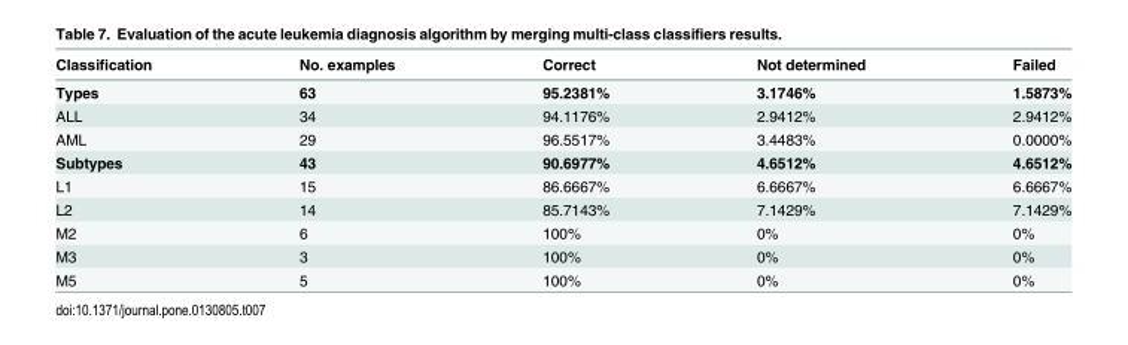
<table><thead><tr><td>Classification</td><td>No. examples</td><td>Correct</td><td>Not determined</td><td>Failed</td></tr></thead><tbody><tr><td>Types</td><td>63</td><td>95.2381%</td><td>3.1746%</td><td>1.5873%</td></tr><tr><td>ALL</td><td>34</td><td>94.1176%</td><td>2.9412%</td><td>2.9412%</td></tr><tr><td>AML</td><td>29</td><td>96.5517%</td><td>3.4483%</td><td>0.0000%</td></tr><tr><td>Subtypes</td><td>43</td><td>90.6977%</td><td>4.6512%</td><td>4.6512%</td></tr><tr><td>L1</td><td>15</td><td>86.6667%</td><td>6.6667%</td><td>6.6667%</td></tr><tr><td>L2</td><td>14</td><td>85.7143%</td><td>7.1429%</td><td>7.1429%</td></tr><tr><td>M2</td><td>6</td><td>100%</td><td>0%</td><td>0%</td></tr><tr><td>M3</td><td>3</td><td>100%</td><td>0%</td><td>0%</td></tr><tr><td>M5</td><td>5</td><td>100%</td><td>0%</td><td>0%</td></tr></tbody></table>